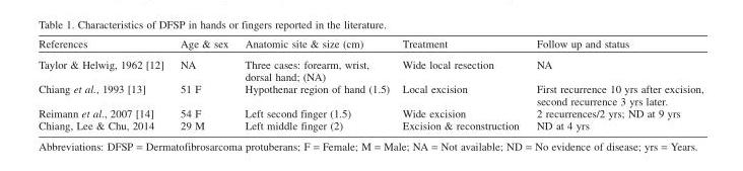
<table><thead><tr><td>References</td><td>Age &amp; sex</td><td>Anatomic site &amp; size (cm)</td><td>Treatment</td><td>Follow up and status</td></tr></thead><tbody><tr><td>Taylor &amp; Helwig, 1962 [12]</td><td>NA</td><td>Three cases: forearm, wrist, dorsal hand; (NA)</td><td>Wide local resection</td><td>NA</td></tr><tr><td>Chiang et al., 1993 [13]</td><td>51 F</td><td>Hypothenar region of hand (1.5)</td><td>Local excision</td><td>First recurrence 10 yrs after excision, second recurrence 3 yrs later.</td></tr><tr><td>Reimann et al., 2007 [14]</td><td>54 F</td><td>Left second finger (1.5)</td><td>Wide excision</td><td>2 recurrences/2 yrs; ND at 9 yrs</td></tr><tr><td>Chiang, Lee &amp; Chu, 2014</td><td>29 M</td><td>Left middle finger (2)</td><td>Excision &amp; reconstruction</td><td>ND at 4 yrs</td></tr></tbody></table>